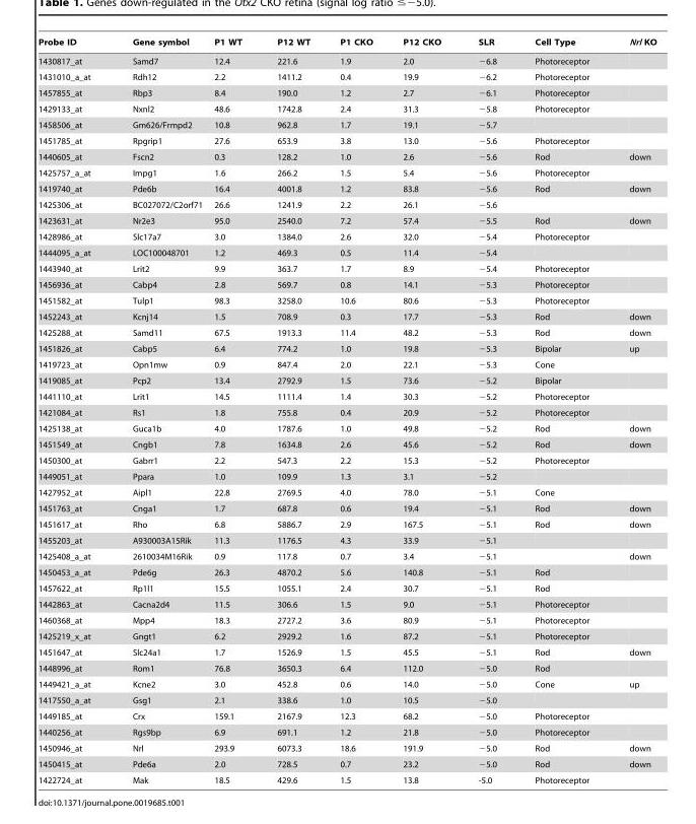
<table><thead><tr><td>Probe ID</td><td>Gene symbol</td><td>P1 WT</td><td>P12 WT</td><td>P1 CKO</td><td>P12 CKO</td><td>SLR</td><td>Cell Type</td><td>Nrl KO</td></tr></thead><tbody><tr><td>1430817_at</td><td>Samd7</td><td>12.4</td><td>221.6</td><td>1.9</td><td>2.0</td><td>−6.8</td><td>Photoreceptor</td><td></td></tr><tr><td>1431010_a_at</td><td>Rdh12</td><td>2.2</td><td>1411.2</td><td>0.4</td><td>19.9</td><td>−6.2</td><td>Photoreceptor</td><td></td></tr><tr><td>1457855_at</td><td>Rbp3</td><td>8.4</td><td>190.0</td><td>1.2</td><td>2.7</td><td>−6.1</td><td>Photoreceptor</td><td></td></tr><tr><td>1429133_at</td><td>Nxnl2</td><td>48.6</td><td>1742.8</td><td>2.4</td><td>31.3</td><td>−5.8</td><td>Photoreceptor</td><td></td></tr><tr><td>1458506_at</td><td>Gm626/Frmpd2</td><td>10.8</td><td>962.8</td><td>1.7</td><td>19.1</td><td>−5.7</td><td></td><td></td></tr><tr><td>1451785_at</td><td>Rpgrip1</td><td>27.6</td><td>653.9</td><td>3.8</td><td>13.0</td><td>−5.6</td><td>Photoreceptor</td><td></td></tr><tr><td>1440605_at</td><td>Fscn2</td><td>0.3</td><td>128.2</td><td>1.0</td><td>2.6</td><td>−5.6</td><td>Rod</td><td>down</td></tr><tr><td>1425757_a_at</td><td>Impg1</td><td>1.6</td><td>266.2</td><td>1.5</td><td>5.4</td><td>−5.6</td><td>Photoreceptor</td><td></td></tr><tr><td>1419740_at</td><td>Pde6b</td><td>16.4</td><td>4001.8</td><td>1.2</td><td>83.8</td><td>−5.6</td><td>Rod</td><td>down</td></tr><tr><td>1425306_at</td><td>BC027072/C2orf71</td><td>26.6</td><td>1241.9</td><td>2.2</td><td>26.1</td><td>−5.6</td><td></td><td></td></tr><tr><td>1423631_at</td><td>Nr2e3</td><td>95.0</td><td>2540.0</td><td>7.2</td><td>57.4</td><td>−5.5</td><td>Rod</td><td>down</td></tr><tr><td>1428986_at</td><td>Slc17a7</td><td>3.0</td><td>1384.0</td><td>2.6</td><td>32.0</td><td>−5.4</td><td>Photoreceptor</td><td></td></tr><tr><td>1444095_a_at</td><td>LOC100048701</td><td>1.2</td><td>469.3</td><td>0.5</td><td>11.4</td><td>−5.4</td><td></td><td></td></tr><tr><td>1443940_at</td><td>Lrit2</td><td>9.9</td><td>363.7</td><td>1.7</td><td>8.9</td><td>−5.4</td><td>Photoreceptor</td><td></td></tr><tr><td>1456936_at</td><td>Cabp4</td><td>2.8</td><td>569.7</td><td>0.8</td><td>14.1</td><td>−5.3</td><td>Photoreceptor</td><td></td></tr><tr><td>1451582_at</td><td>Tulp1</td><td>98.3</td><td>3258.0</td><td>10.6</td><td>80.6</td><td>−5.3</td><td>Photoreceptor</td><td></td></tr><tr><td>1452243_at</td><td>Kcnj14</td><td>1.5</td><td>708.9</td><td>0.3</td><td>17.7</td><td>−5.3</td><td>Rod</td><td>down</td></tr><tr><td>1425288_at</td><td>Samd11</td><td>67.5</td><td>1913.3</td><td>11.4</td><td>48.2</td><td>−5.3</td><td>Rod</td><td>down</td></tr><tr><td>1451826_at</td><td>Cabp5</td><td>6.4</td><td>774.2</td><td>1.0</td><td>19.8</td><td>−5.3</td><td>Bipolar</td><td>up</td></tr><tr><td>1419723_at</td><td>Opn1mw</td><td>0.9</td><td>847.4</td><td>2.0</td><td>22.1</td><td>−5.3</td><td>Cone</td><td></td></tr><tr><td>1419085_at</td><td>Pcp2</td><td>13.4</td><td>2792.9</td><td>1.5</td><td>73.6</td><td>−5.2</td><td>Bipolar</td><td></td></tr><tr><td>1441110_at</td><td>Lrit1</td><td>14.5</td><td>1111.4</td><td>1.4</td><td>30.3</td><td>−5.2</td><td>Photoreceptor</td><td></td></tr><tr><td>1421084_at</td><td>Rs1</td><td>1.8</td><td>755.8</td><td>0.4</td><td>20.9</td><td>−5.2</td><td>Photoreceptor</td><td></td></tr><tr><td>1425138_at</td><td>Guca1b</td><td>4.0</td><td>1787.6</td><td>1.0</td><td>49.8</td><td>−5.2</td><td>Rod</td><td>down</td></tr><tr><td>1451549_at</td><td>Cngb1</td><td>7.8</td><td>1634.8</td><td>2.6</td><td>45.6</td><td>−5.2</td><td>Rod</td><td>down</td></tr><tr><td>1450300_at</td><td>Gabrr1</td><td>2.2</td><td>547.3</td><td>2.2</td><td>15.3</td><td>−5.2</td><td>Photoreceptor</td><td></td></tr><tr><td>1449051_at</td><td>Ppara</td><td>1.0</td><td>109.9</td><td>1.3</td><td>3.1</td><td>−5.2</td><td></td><td></td></tr><tr><td>1427952_at</td><td>Aipl1</td><td>22.8</td><td>2769.5</td><td>4.0</td><td>78.0</td><td>−5.1</td><td>Cone</td><td></td></tr><tr><td>1451763_at</td><td>Cnga1</td><td>1.7</td><td>687.8</td><td>0.6</td><td>19.4</td><td>−5.1</td><td>Rod</td><td>down</td></tr><tr><td>1451617_at</td><td>Rho</td><td>6.8</td><td>5886.7</td><td>2.9</td><td>167.5</td><td>−5.1</td><td>Rod</td><td>down</td></tr><tr><td>1455203_at</td><td>A930003A15Rik</td><td>11.3</td><td>1176.5</td><td>4.3</td><td>33.9</td><td>−5.1</td><td></td><td></td></tr><tr><td>1425408_a_at</td><td>2610034M16Rik</td><td>0.9</td><td>117.8</td><td>0.7</td><td>3.4</td><td>−5.1</td><td></td><td>down</td></tr><tr><td>1450453_a_at</td><td>Pde6g</td><td>26.3</td><td>4870.2</td><td>5.6</td><td>140.8</td><td>−5.1</td><td>Rod</td><td></td></tr><tr><td>1457622_at</td><td>Rp1l1</td><td>15.5</td><td>1055.1</td><td>2.4</td><td>30.7</td><td>−5.1</td><td>Rod</td><td></td></tr><tr><td>1442863_at</td><td>Cacna2d4</td><td>11.5</td><td>306.6</td><td>1.5</td><td>9.0</td><td>−5.1</td><td>Photoreceptor</td><td></td></tr><tr><td>1460368_at</td><td>Mpp4</td><td>18.3</td><td>2727.2</td><td>3.6</td><td>80.9</td><td>−5.1</td><td>Photoreceptor</td><td></td></tr><tr><td>1425219_x_at</td><td>Gngt1</td><td>6.2</td><td>2929.2</td><td>1.6</td><td>87.2</td><td>−5.1</td><td>Photoreceptor</td><td></td></tr><tr><td>1451647_at</td><td>Slc24a1</td><td>1.7</td><td>1526.9</td><td>1.5</td><td>45.5</td><td>−5.1</td><td>Rod</td><td>down</td></tr><tr><td>1448996_at</td><td>Rom1</td><td>76.8</td><td>3650.3</td><td>6.4</td><td>112.0</td><td>−5.0</td><td>Rod</td><td></td></tr><tr><td>1449421_a_at</td><td>Kcne2</td><td>3.0</td><td>452.8</td><td>0.6</td><td>14.0</td><td>−5.0</td><td>Cone</td><td>up</td></tr><tr><td>1417550_a_at</td><td>Gsg1</td><td>2.1</td><td>338.6</td><td>1.0</td><td>10.5</td><td>−5.0</td><td></td><td></td></tr><tr><td>1449185_at</td><td>Crx</td><td>159.1</td><td>2167.9</td><td>12.3</td><td>68.2</td><td>−5.0</td><td>Photoreceptor</td><td></td></tr><tr><td>1440256_at</td><td>Rgs9bp</td><td>6.9</td><td>691.1</td><td>1.2</td><td>21.8</td><td>−5.0</td><td>Photoreceptor</td><td></td></tr><tr><td>1450946_at</td><td>Nrl</td><td>293.9</td><td>6073.3</td><td>18.6</td><td>191.9</td><td>−5.0</td><td>Rod</td><td>down</td></tr><tr><td>1450415_at</td><td>Pde6a</td><td>2.0</td><td>728.5</td><td>0.7</td><td>23.2</td><td>−5.0</td><td>Rod</td><td>down</td></tr><tr><td>1422724_at</td><td>Mak</td><td>18.5</td><td>429.6</td><td>1.5</td><td>13.8</td><td>-5.0</td><td>Photoreceptor</td><td></td></tr></tbody></table>